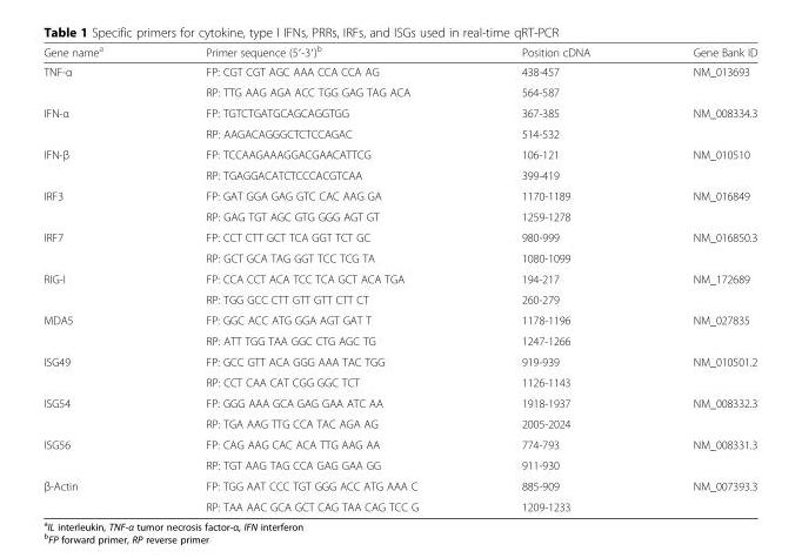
<table><thead><tr><td>Gene name<sup>a</sup></td><td>Primer sequence (5′-3′)<sup>b</sup></td><td>Position cDNA</td><td>Gene Bank ID</td></tr></thead><tbody><tr><td rowspan="2">TNF-α</td><td>FP: CGT CGT AGC AAA CCA CCA AG</td><td>438-457</td><td rowspan="2">NM_013693</td></tr><tr><td>RP: TTG AAG AGA ACC TGG GAG TAG ACA</td><td>564-587</td></tr><tr><td rowspan="2">IFN-α</td><td>FP: TGTCTGATGCAGCAGGTGG</td><td>367-385</td><td rowspan="2">NM_008334.3</td></tr><tr><td>RP: AAGACAGGGCTCTCCAGAC</td><td>514-532</td></tr><tr><td rowspan="2">IFN-β</td><td>FP: TCCAAGAAAGGACGAACATTCG</td><td>106-121</td><td rowspan="2">NM_010510</td></tr><tr><td>RP: TGAGGACATCTCCCACGTCAA</td><td>399-419</td></tr><tr><td rowspan="2">IRF3</td><td>FP: GAT GGA GAG GTC CAC AAG GA</td><td>1170-1189</td><td rowspan="2">NM_016849</td></tr><tr><td>RP: GAG TGT AGC GTG GGG AGT GT</td><td>1259-1278</td></tr><tr><td rowspan="2">IRF7</td><td>FP: CCT CTT GCT TCA GGT TCT GC</td><td>980-999</td><td rowspan="2">NM_016850.3</td></tr><tr><td>RP: GCT GCA TAG GGT TCC TCG TA</td><td>1080-1099</td></tr><tr><td rowspan="2">RIG-I</td><td>FP: CCA CCT ACA TCC TCA GCT ACA TGA</td><td>194-217</td><td rowspan="2">NM_172689</td></tr><tr><td>RP: TGG GCC CTT GTT GTT CTT CT</td><td>260-279</td></tr><tr><td rowspan="2">MDA5</td><td>FP: GGC ACC ATG GGA AGT GAT T</td><td>1178-1196</td><td rowspan="2">NM_027835</td></tr><tr><td>RP: ATT TGG TAA GGC CTG AGC TG</td><td>1247-1266</td></tr><tr><td rowspan="2">ISG49</td><td>FP: GCC GTT ACA GGG AAA TAC TGG</td><td>919-939</td><td rowspan="2">NM_010501.2</td></tr><tr><td>RP: CCT CAA CAT CGG GGC TCT</td><td>1126-1143</td></tr><tr><td rowspan="2">ISG54</td><td>FP: GGG AAA GCA GAG GAA ATC AA</td><td>1918-1937</td><td rowspan="2">NM_008332.3</td></tr><tr><td>RP: TGA AAG TTG CCA TAC AGA AG</td><td>2005-2024</td></tr><tr><td rowspan="2">ISG56</td><td>FP: CAG AAG CAC ACA TTG AAG AA</td><td>774-793</td><td rowspan="2">NM_008331.3</td></tr><tr><td>RP: TGT AAG TAG CCA GAG GAA GG</td><td>911-930</td></tr><tr><td rowspan="2">β-Actin</td><td>FP: TGG AAT CCC TGT GGG ACC ATG AAA C</td><td>885-909</td><td rowspan="2">NM_007393.3</td></tr><tr><td>RP: TAA AAC GCA GCT CAG TAA CAG TCC G</td><td>1209-1233</td></tr></tbody></table>